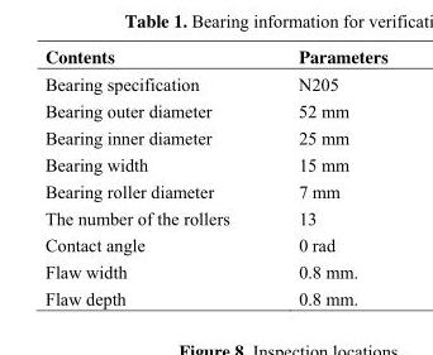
<table><thead><tr><td>Contents</td><td>Parameters</td></tr></thead><tbody><tr><td>Bearing specification</td><td>N205</td></tr><tr><td>Bearing outer diameter</td><td>52 mm</td></tr><tr><td>Bearing inner diameter</td><td>25 mm</td></tr><tr><td>Bearing width</td><td>15 mm</td></tr><tr><td>Bearing roller diameter</td><td>7 mm</td></tr><tr><td>The number of the rollers</td><td>13</td></tr><tr><td>Contact angle</td><td>0 rad</td></tr><tr><td>Flaw width</td><td>0.8 mm.</td></tr><tr><td>Flaw depth</td><td>0.8 mm.</td></tr></tbody></table>